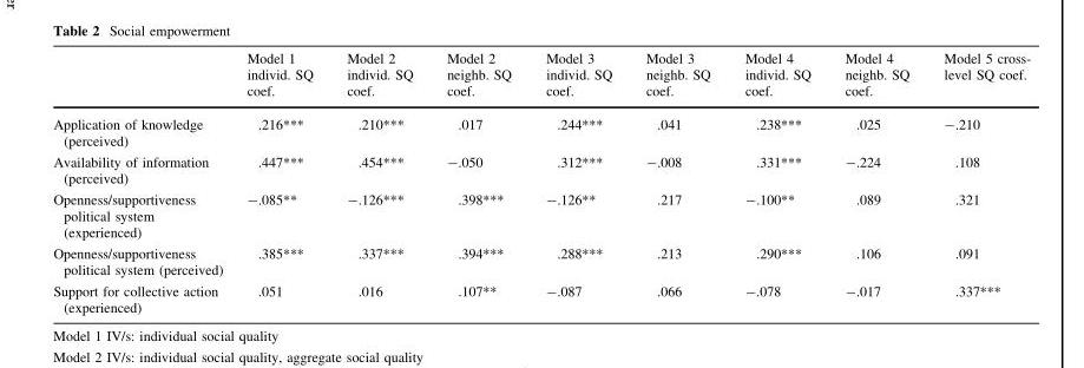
<table><thead><tr><td></td><td>Model 1 individ. SQ coef.</td><td>Model 2 individ. SQ coef.</td><td>Model 2 neighb. SQ coef.</td><td>Model 3 individ. SQ coef.</td><td>Model 3 neighb. SQ coef.</td><td>Model 4 individ. SQ coef.</td><td>Model 4 neighb. SQ coef.</td><td>Model 5 cross- level SQ coef.</td></tr></thead><tbody><tr><td>Application of knowledge (perceived)</td><td>.216***</td><td>.210***</td><td>.017</td><td>.244***</td><td>.041</td><td>.238***</td><td>.025</td><td>-.210</td></tr><tr><td>Availability of information (perceived)</td><td>.447***</td><td>.454***</td><td>-.050</td><td>.312***</td><td>-.008</td><td>.331***</td><td>-.224</td><td>.108</td></tr><tr><td>Openness/supportiveness political system (experienced)</td><td>-.085**</td><td>-.126***</td><td>.398***</td><td>-.126**</td><td>.217</td><td>-.100**</td><td>.089</td><td>.321</td></tr><tr><td>Openness/supportiveness political system (perceived)</td><td>.385***</td><td>.337***</td><td>.394***</td><td>.288***</td><td>.213</td><td>.290***</td><td>.106</td><td>.091</td></tr><tr><td>Support for collective action (experienced)</td><td>.051</td><td>.016</td><td>.107**</td><td>-.087</td><td>.066</td><td>-.078</td><td>-.017</td><td>.337***</td></tr></tbody></table>